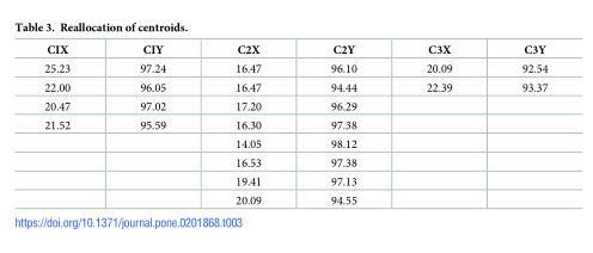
<table><thead><tr><td>CIX</td><td>CIY</td><td>C2X</td><td>C2Y</td><td>C3X</td><td>C3Y</td></tr></thead><tbody><tr><td>25.23</td><td>97.24</td><td>16.47</td><td>96.10</td><td>20.09</td><td>92.54</td></tr><tr><td>22.00</td><td>96.05</td><td>16.47</td><td>94.44</td><td>22.39</td><td>93.37</td></tr><tr><td>20.47</td><td>97.02</td><td>17.20</td><td>96.29</td><td></td><td></td></tr><tr><td rowspan="5">21.52</td><td>95.59</td><td>16.30</td><td>97.38</td><td></td><td></td></tr><tr><td></td><td>14.05</td><td>98.12</td><td></td><td></td></tr><tr><td></td><td>16.53</td><td>97.38</td><td></td><td></td></tr><tr><td></td><td>19.41</td><td>97.13</td><td></td><td></td></tr><tr><td></td><td>20.09</td><td>94.55</td><td></td><td></td></tr></tbody></table>